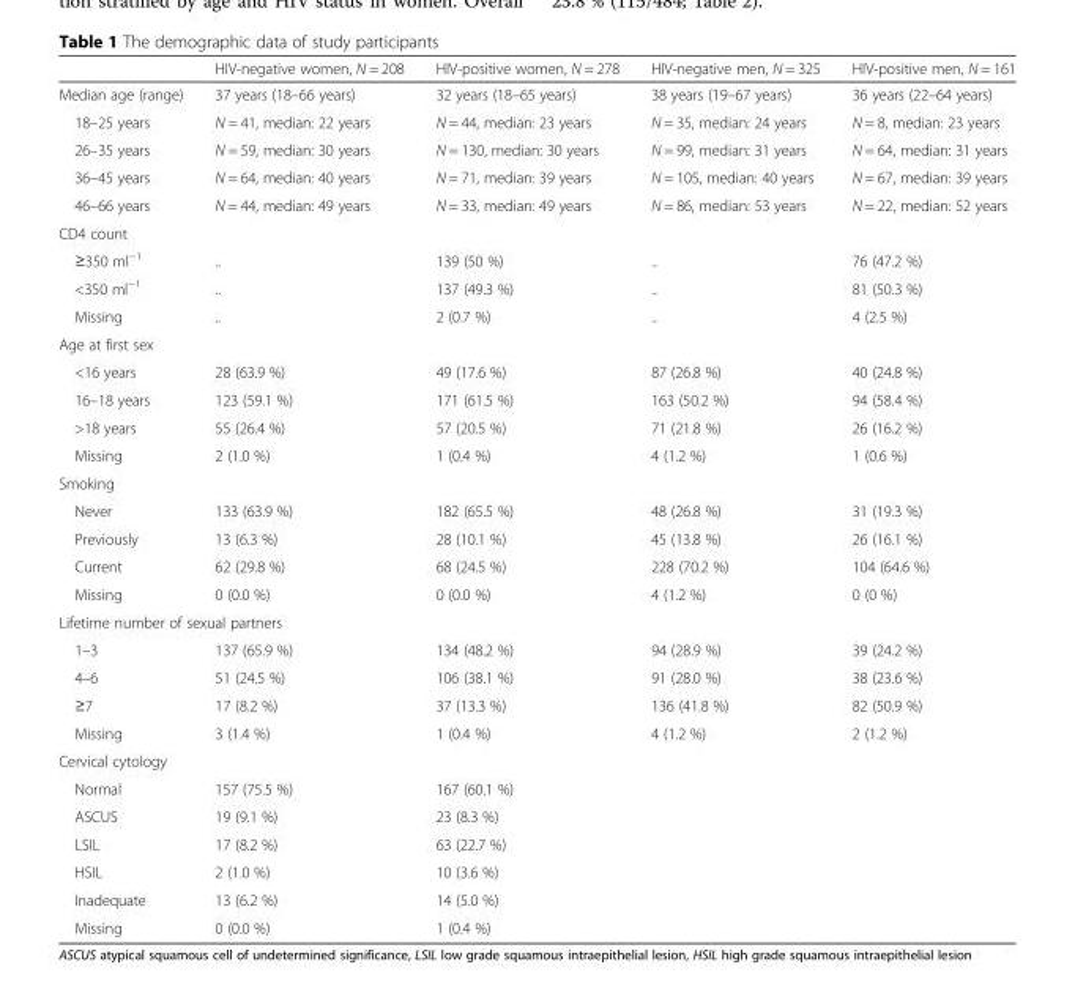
<table><thead><tr><td></td><td>HIV-negative women, N = 208</td><td>HIV-positive women, N = 278</td><td>HIV-negative men, N = 325</td><td>HIV-positive men, N = 161</td></tr></thead><tbody><tr><td>Median age (range)</td><td>37 years (18–66 years)</td><td>32 years (18–65 years)</td><td>38 years (19–67 years)</td><td>36 years (22–64 years)</td></tr><tr><td>18–25 years</td><td>N = 41, median: 22 years</td><td>N = 44, median: 23 years</td><td>N = 35, median: 24 years</td><td>N = 8, median: 23 years</td></tr><tr><td>26–35 years</td><td>N = 59, median: 30 years</td><td>N = 130, median: 30 years</td><td>N = 99, median: 31 years</td><td>N = 64, median: 31 years</td></tr><tr><td>36–45 years</td><td>N = 64, median: 40 years</td><td>N = 71, median: 39 years</td><td>N = 105, median: 40 years</td><td>N = 67, median: 39 years</td></tr><tr><td>46–66 years</td><td>N = 44, median: 49 years</td><td>N = 33, median: 49 years</td><td>N = 86, median: 53 years</td><td>N = 22, median: 52 years</td></tr><tr><td colspan="5">CD4 count</td></tr><tr><td>≥350 ml<sup>−1</sup></td><td>..</td><td>139 (50 %)</td><td>..</td><td>76 (47.2 %)</td></tr><tr><td>&lt;350 ml<sup>−1</sup></td><td>..</td><td>137 (49.3 %)</td><td>..</td><td>81 (50.3 %)</td></tr><tr><td>Missing</td><td>..</td><td>2 (0.7 %)</td><td>..</td><td>4 (2.5 %)</td></tr><tr><td colspan="5">Age at first sex</td></tr><tr><td>&lt;16 years</td><td>28 (63.9 %)</td><td>49 (17.6 %)</td><td>87 (26.8 %)</td><td>40 (24.8 %)</td></tr><tr><td>16–18 years</td><td>123 (59.1 %)</td><td>171 (61.5 %)</td><td>163 (50.2 %)</td><td>94 (58.4 %)</td></tr><tr><td>&gt;18 years</td><td>55 (26.4 %)</td><td>57 (20.5 %)</td><td>71 (21.8 %)</td><td>26 (16.2 %)</td></tr><tr><td>Missing</td><td>2 (1.0 %)</td><td>1 (0.4 %)</td><td>4 (1.2 %)</td><td>1 (0.6 %)</td></tr><tr><td colspan="5">Smoking</td></tr><tr><td>Never</td><td>133 (63.9 %)</td><td>182 (65.5 %)</td><td>48 (26.8 %)</td><td>31 (19.3 %)</td></tr><tr><td>Previously</td><td>13 (6.3 %)</td><td>28 (10.1 %)</td><td>45 (13.8 %)</td><td>26 (16.1 %)</td></tr><tr><td>Current</td><td>62 (29.8 %)</td><td>68 (24.5 %)</td><td>228 (70.2 %)</td><td>104 (64.6 %)</td></tr><tr><td>Missing</td><td>0 (0.0 %)</td><td>0 (0.0 %)</td><td>4 (1.2 %)</td><td>0 (0 %)</td></tr><tr><td colspan="5">Lifetime number of sexual partners</td></tr><tr><td>1–3</td><td>137 (65.9 %)</td><td>134 (48.2 %)</td><td>94 (28.9 %)</td><td>39 (24.2 %)</td></tr><tr><td>4–6</td><td>51 (24.5 %)</td><td>106 (38.1 %)</td><td>91 (28.0 %)</td><td>38 (23.6 %)</td></tr><tr><td>≥7</td><td>17 (8.2 %)</td><td>37 (13.3 %)</td><td>136 (41.8 %)</td><td>82 (50.9 %)</td></tr><tr><td>Missing</td><td>3 (1.4 %)</td><td>1 (0.4 %)</td><td>4 (1.2 %)</td><td>2 (1.2 %)</td></tr><tr><td colspan="5">Cervical cytology</td></tr><tr><td>Normal</td><td>157 (75.5 %)</td><td>167 (60.1 %)</td><td></td><td></td></tr><tr><td>ASCUS</td><td>19 (9.1 %)</td><td>23 (8.3 %)</td><td></td><td></td></tr><tr><td>LSIL</td><td>17 (8.2 %)</td><td>63 (22.7 %)</td><td></td><td></td></tr><tr><td>HSIL</td><td>2 (1.0 %)</td><td>10 (3.6 %)</td><td></td><td></td></tr><tr><td>Inadequate</td><td>13 (6.2 %)</td><td>14 (5.0 %)</td><td></td><td></td></tr><tr><td>Missing</td><td>0 (0.0 %)</td><td>1 (0.4 %)</td><td></td><td></td></tr></tbody></table>